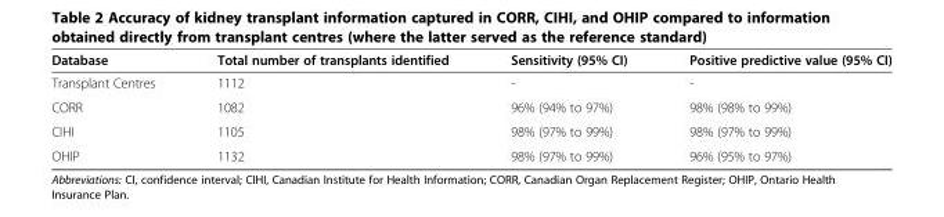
<table><thead><tr><td>Database</td><td>Total number of transplants identified</td><td>Sensitivity (95% CI)</td><td>Positive predictive value (95% CI)</td></tr></thead><tbody><tr><td>Transplant Centres</td><td>1112</td><td>-</td><td>-</td></tr><tr><td>CORR</td><td>1082</td><td>96% (94% to 97%)</td><td>98% (98% to 99%)</td></tr><tr><td>CIHI</td><td>1105</td><td>98% (97% to 99%)</td><td>98% (97% to 99%)</td></tr><tr><td>OHIP</td><td>1132</td><td>98% (97% to 99%)</td><td>96% (95% to 97%)</td></tr></tbody></table>